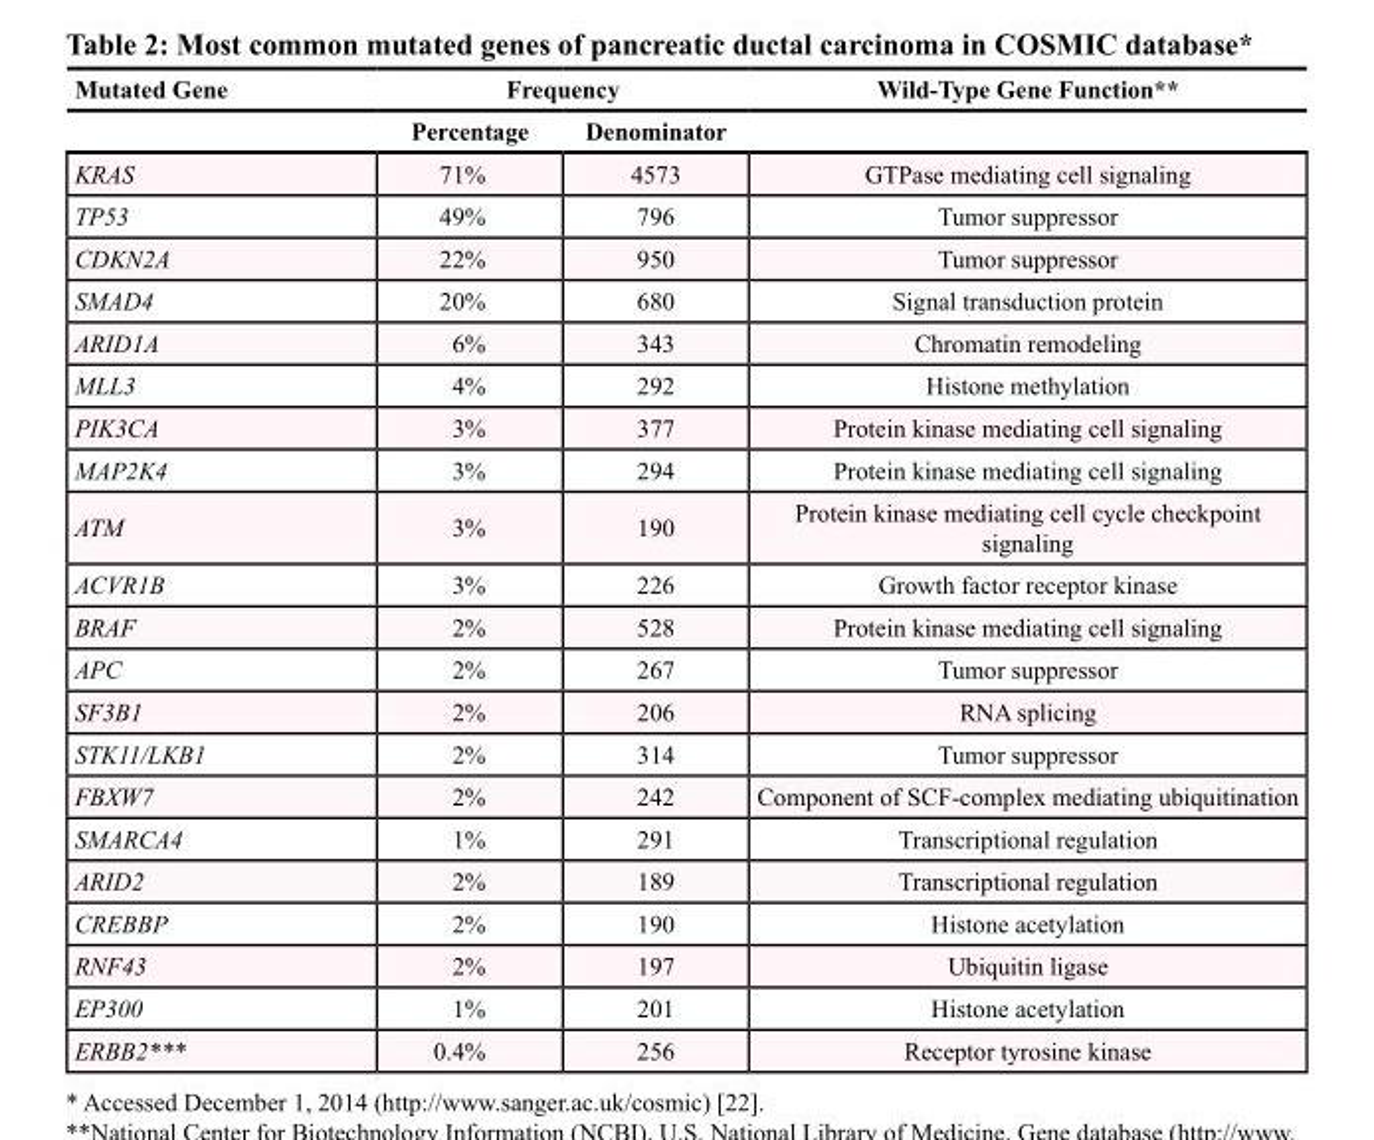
<table><thead><tr><td rowspan="2">Mutated Gene</td><td colspan="2">Frequency</td><td rowspan="2">Wild-Type Gene Function**</td></tr><tr><td>Percentage</td><td>Denominator</td></tr></thead><tbody><tr><td>KRAS</td><td>71%</td><td>4573</td><td>GTPase mediating cell signaling</td></tr><tr><td>TP53</td><td>49%</td><td>796</td><td>Tumor suppressor</td></tr><tr><td>CDKN2A</td><td>22%</td><td>950</td><td>Tumor suppressor</td></tr><tr><td>SMAD4</td><td>20%</td><td>680</td><td>Signal transduction protein</td></tr><tr><td>ARID1A</td><td>6%</td><td>343</td><td>Chromatin remodeling</td></tr><tr><td>MLL3</td><td>4%</td><td>292</td><td>Histone methylation</td></tr><tr><td>PIK3CA</td><td>3%</td><td>377</td><td>Protein kinase mediating cell signaling</td></tr><tr><td>MAP2K4</td><td>3%</td><td>294</td><td>Protein kinase mediating cell signaling</td></tr><tr><td>ATM</td><td>3%</td><td>190</td><td>Protein kinase mediating cell cycle checkpoint signaling</td></tr><tr><td>ACVR1B</td><td>3%</td><td>226</td><td>Growth factor receptor kinase</td></tr><tr><td>BRAF</td><td>2%</td><td>528</td><td>Protein kinase mediating cell signaling</td></tr><tr><td>APC</td><td>2%</td><td>267</td><td>Tumor suppressor</td></tr><tr><td>SF3B1</td><td>2%</td><td>206</td><td>RNA splicing</td></tr><tr><td>STK11/LKB1</td><td>2%</td><td>314</td><td>Tumor suppressor</td></tr><tr><td>FBXW7</td><td>2%</td><td>242</td><td>Component of SCF-complex mediating ubiquitination</td></tr><tr><td>SMARCA4</td><td>1%</td><td>291</td><td>Transcriptional regulation</td></tr><tr><td>ARID2</td><td>2%</td><td>189</td><td>Transcriptional regulation</td></tr><tr><td>CREBBP</td><td>2%</td><td>190</td><td>Histone acetylation</td></tr><tr><td>RNF43</td><td>2%</td><td>197</td><td>Ubiquitin ligase</td></tr><tr><td>EP300</td><td>1%</td><td>201</td><td>Histone acetylation</td></tr><tr><td>ERBB2***</td><td>0.4%</td><td>256</td><td>Receptor tyrosine kinase</td></tr></tbody></table>